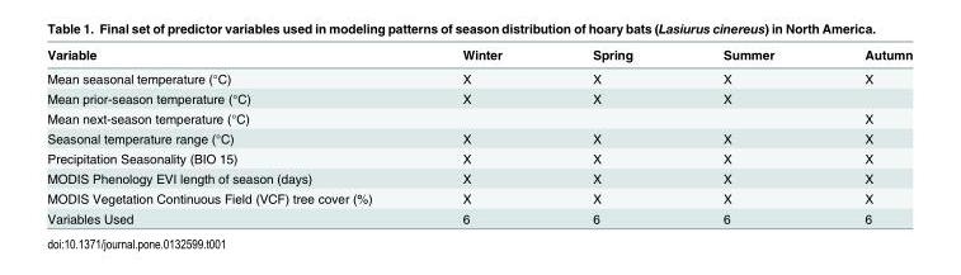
<table><thead><tr><td>Variable</td><td>Winter</td><td>Spring</td><td>Summer</td><td>Autumn</td></tr></thead><tbody><tr><td>Mean seasonal temperature (°C)</td><td>X</td><td>X</td><td>X</td><td>X</td></tr><tr><td>Mean prior-season temperature (°C)</td><td>X</td><td>X</td><td>X</td><td></td></tr><tr><td>Mean next-season temperature (°C)</td><td></td><td></td><td></td><td>X</td></tr><tr><td>Seasonal temperature range (°C)</td><td>X</td><td>X</td><td>X</td><td>X</td></tr><tr><td>Precipitation Seasonality (BIO 15)</td><td>X</td><td>X</td><td>X</td><td>X</td></tr><tr><td>MODIS Phenology EVI length of season (days)</td><td>X</td><td>X</td><td>X</td><td>X</td></tr><tr><td>MODIS Vegetation Continuous Field (VCF) tree cover (%)</td><td>X</td><td>X</td><td>X</td><td>X</td></tr><tr><td>Variables Used</td><td>6</td><td>6</td><td>6</td><td>6</td></tr></tbody></table>